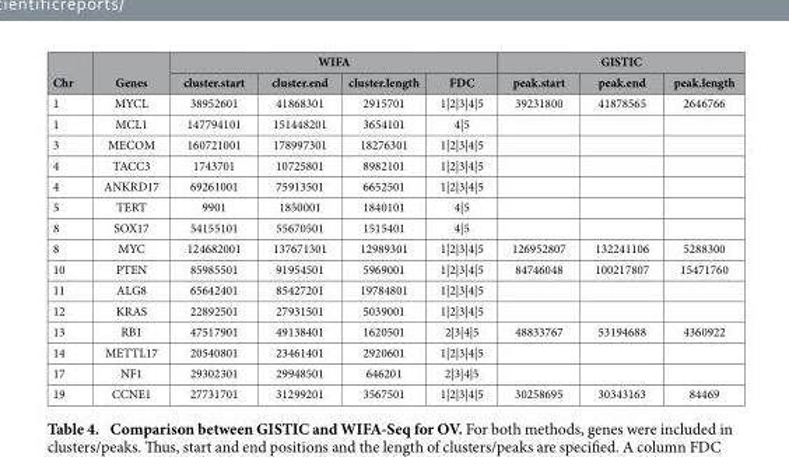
<table><thead><tr><td rowspan="2">Chr</td><td rowspan="2">Genes</td><td colspan="4">WIFA</td><td colspan="3">GISTIC</td></tr><tr><td>cluster.start</td><td>cluster.end</td><td>cluster.length</td><td>FDC</td><td>peak.start</td><td>peak.end</td><td>peak.length</td></tr></thead><tbody><tr><td>1</td><td>MYCL</td><td>38952601</td><td>41868301</td><td>2915701</td><td>1|2|3|4|5</td><td>39231800</td><td>41878565</td><td>2646766</td></tr><tr><td>1</td><td>MCL1</td><td>147794101</td><td>151448201</td><td>3654101</td><td>4|5</td><td></td><td></td><td></td></tr><tr><td>3</td><td>MECOM</td><td>160721001</td><td>178997301</td><td>18276301</td><td>1|2|3|4|5</td><td></td><td></td><td></td></tr><tr><td>4</td><td>TACC3</td><td>1743701</td><td>10725801</td><td>8982101</td><td>1|2|3|4|5</td><td></td><td></td><td></td></tr><tr><td>4</td><td>ANKRD17</td><td>69261001</td><td>75913501</td><td>6652501</td><td>1|2|3|4|5</td><td></td><td></td><td></td></tr><tr><td>5</td><td>TERT</td><td>9901</td><td>1850001</td><td>1840101</td><td>4|5</td><td></td><td></td><td></td></tr><tr><td>8</td><td>SOX17</td><td>54155101</td><td>55670501</td><td>1515401</td><td>4|5</td><td></td><td></td><td></td></tr><tr><td>8</td><td>MYC</td><td>124682001</td><td>137671301</td><td>12989301</td><td>1|2|3|4|5</td><td>126952807</td><td>132241106</td><td>5288300</td></tr><tr><td>10</td><td>PTEN</td><td>85985501</td><td>91954501</td><td>5969001</td><td>1|2|3|4|5</td><td>84746048</td><td>100217807</td><td>15471760</td></tr><tr><td>11</td><td>ALG8</td><td>65642401</td><td>85427201</td><td>19784801</td><td>1|2|3|4|5</td><td></td><td></td><td></td></tr><tr><td>12</td><td>KRAS</td><td>22892501</td><td>27931501</td><td>5039001</td><td>1|2|3|4|5</td><td></td><td></td><td></td></tr><tr><td>13</td><td>RB1</td><td>47517901</td><td>49138401</td><td>1620501</td><td>2|3|4|5</td><td>48833767</td><td>53194688</td><td>4360922</td></tr><tr><td>14</td><td>METTL17</td><td>20540801</td><td>23461401</td><td>2920601</td><td>1|2|3|4|5</td><td></td><td></td><td></td></tr><tr><td>17</td><td>NF1</td><td>29302301</td><td>29948501</td><td>646201</td><td>2|3|4|5</td><td></td><td></td><td></td></tr><tr><td>19</td><td>CCNE1</td><td>27731701</td><td>31299201</td><td>3567501</td><td>1|2|3|4|5</td><td>30258695</td><td>30343163</td><td>84469</td></tr></tbody></table>